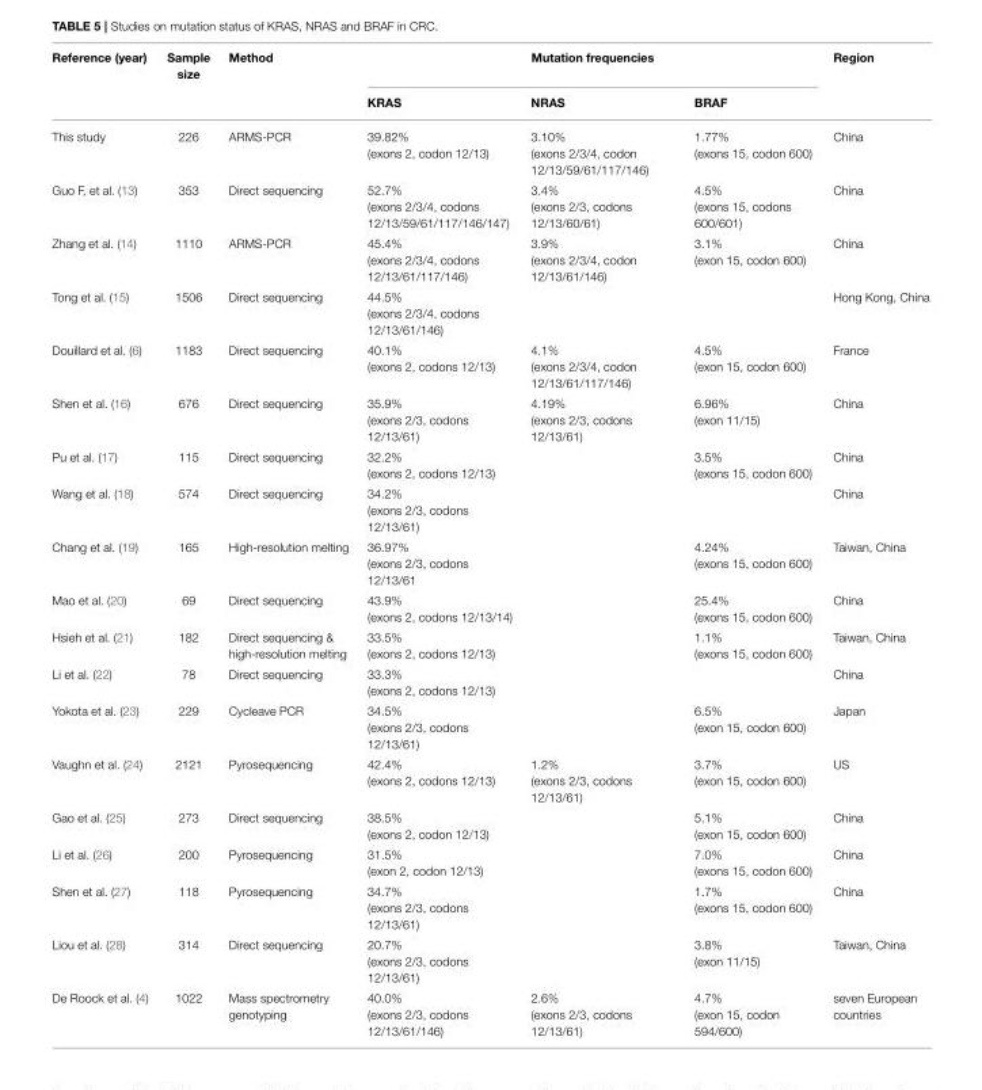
<table><thead><tr><td rowspan="2">Reference (year)</td><td rowspan="2">Sample size</td><td rowspan="2">Method</td><td colspan="3">Mutation frequencies</td><td rowspan="2">Region</td></tr><tr><td>KRAS</td><td>NRAS</td><td>BRAF</td></tr></thead><tbody><tr><td>This study</td><td>226</td><td>ARMS-PCR</td><td>39.82% (exons 2, codon 12/13)</td><td>3.10% (exons 2/3/4, codon 12/13/59/61/117/146)</td><td>1.77% (exons 15, codon 600)</td><td>China</td></tr><tr><td>Guo F, et al. (13)</td><td>353</td><td>Direct sequencing</td><td>52.7% (exons 2/3/4, codons 12/13/59/61/117/146/147)</td><td>3.4% (exons 2/3, codons 12/13/60/61)</td><td>4.5% (exons 15, codons 600/601)</td><td>China</td></tr><tr><td>Zhang et al. (14)</td><td>1110</td><td>ARMS-PCR</td><td>45.4% (exons 2/3/4, codons 12/13/61/117/146)</td><td>3.9% (exons 2/3/4, codon 12/13/61/146)</td><td>3.1% (exon 15, codon 600)</td><td>China</td></tr><tr><td>Tong et al. (15)</td><td>1506</td><td>Direct sequencing</td><td>44.5% (exons 2/3/4, codons 12/13/61/146)</td><td></td><td></td><td>Hong Kong, China</td></tr><tr><td>Douillard et al. (6)</td><td>1183</td><td>Direct sequencing</td><td>40.1% (exons 2, codons 12/13)</td><td>4.1% (exons 2/3/4, codon 12/13/61/117/146)</td><td>4.5% (exon 15, codon 600)</td><td>France</td></tr><tr><td>Shen et al. (16)</td><td>676</td><td>Direct sequencing</td><td>35.9% (exons 2/3, codons 12/13/61)</td><td>4.19% (exons 2/3, codons 12/13/61)</td><td>6.96% (exon 11/15)</td><td>China</td></tr><tr><td>Pu et al. (17)</td><td>115</td><td>Direct sequencing</td><td>32.2% (exons 2, codons 12/13)</td><td></td><td>3.5% (exons 15, codon 600)</td><td>China</td></tr><tr><td>Wang et al. (18)</td><td>574</td><td>Direct sequencing</td><td>34.2% (exons 2/3, codons 12/13/61)</td><td></td><td></td><td>China</td></tr><tr><td>Chang et al. (19)</td><td>165</td><td>High-resolution melting</td><td>36.97% (exons 2/3, codons 12/13/61</td><td></td><td>4.24% (exons 15, codon 600)</td><td>Taiwan, China</td></tr><tr><td>Mao et al. (20)</td><td>69</td><td>Direct sequencing</td><td>43.9% (exons 2, codons 12/13/14)</td><td></td><td>25.4% (exons 15, codon 600)</td><td>China</td></tr><tr><td>Hsieh et al. (21)</td><td>182</td><td>Direct sequencing &amp; high-resolution melting</td><td>33.5% (exons 2, codons 12/13)</td><td></td><td>1.1% (exons 15, codon 600)</td><td>Taiwan, China</td></tr><tr><td>Li et al. (22)</td><td>78</td><td>Direct sequencing</td><td>33.3% (exons 2, codons 12/13)</td><td></td><td></td><td>China</td></tr><tr><td>Yokota et al. (23)</td><td>229</td><td>Cycleave PCR</td><td>34.5% (exons 2/3, codons 12/13/61)</td><td></td><td>6.5% (exon 15, codon 600)</td><td>Japan</td></tr><tr><td>Vaughn et al. (24)</td><td>2121</td><td>Pyrosequencing</td><td>42.4% (exons 2, codons 12/13)</td><td>1.2% (exons 2/3, codons 12/13/61)</td><td>3.7% (exon 15, codon 600)</td><td>US</td></tr><tr><td>Gao et al. (25)</td><td>273</td><td>Direct sequencing</td><td>38.5% (exons 2, codon 12/13)</td><td></td><td>5.1% (exon 15, codon 600)</td><td>China</td></tr><tr><td>Li et al. (26)</td><td>200</td><td>Pyrosequencing</td><td>31.5% (exon 2, codon 12/13)</td><td></td><td>7.0% (exons 15, codon 600)</td><td>China</td></tr><tr><td>Shen et al. (27)</td><td>118</td><td>Pyrosequencing</td><td>34.7% (exons 2/3, codons 12/13/61)</td><td></td><td>1.7% (exons 15, codon 600)</td><td>China</td></tr><tr><td>Liou et al. (28)</td><td>314</td><td>Direct sequencing</td><td>20.7% (exons 2/3, codons 12/13/61)</td><td></td><td>3.8% (exon 11/15)</td><td>Taiwan, China</td></tr><tr><td>De Roock et al. (4)</td><td>1022</td><td>Mass spectrometry genotyping</td><td>40.0% (exons 2/3, codons 12/13/61/146)</td><td>2.6% (exons 2/3, codons 12/13/61)</td><td>4.7% (exon 15, codon 594/600)</td><td>seven European countries</td></tr></tbody></table>